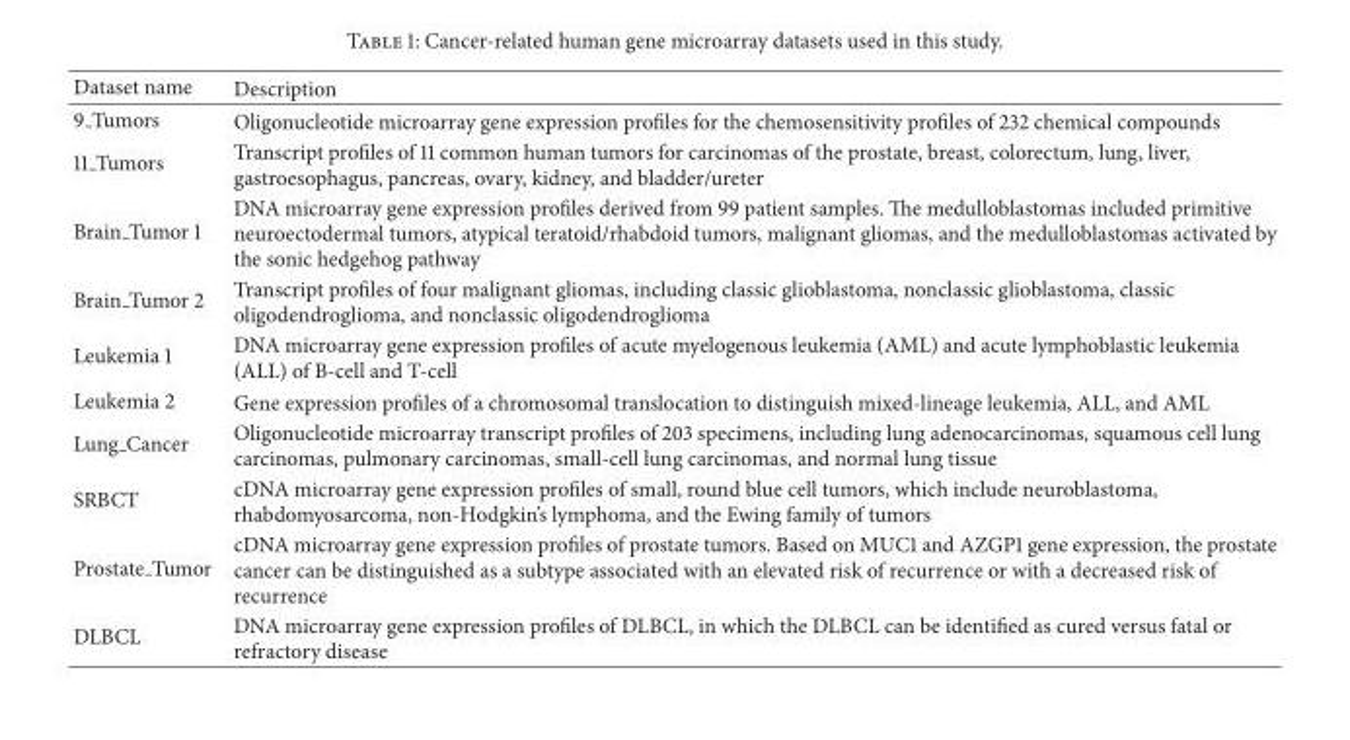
<table><thead><tr><td>Dataset name</td><td>Description</td></tr></thead><tbody><tr><td>9 Tumors</td><td>Oligonucleotide microarray gene expression profiles for the chemosensitivity profiles of 232 chemical compounds</td></tr><tr><td>11 Tumors</td><td>Transcript profiles of 11 common human tumors for carcinomas of the prostate, breast, colorectum, lung, liver, gastroesophagus, pancreas, ovary, kidney, and bladder/ureter</td></tr><tr><td>Brain Tumor 1</td><td>DNA microarray gene expression profiles derived from 99 patient samples. The medulloblastomas included primitive neuroectodermal tumors, atypical teratoid/rhabdoid tumors, malignant gliomas, and the medulloblastomas activated by the sonic hedgehog pathway</td></tr><tr><td>Brain Tumor 2</td><td>Transcript profiles of four malignant gliomas, including classic glioblastoma, nonclassic glioblastoma, classic oligodendroglioma, and nonclassic oligodendroglioma</td></tr><tr><td>Leukemia 1</td><td>DNA microarray gene expression profiles of acute myelogenous leukemia (AML) and acute lymphoblastic leukemia (ALL) of B-cell and T-cell</td></tr><tr><td>Leukemia 2</td><td>Gene expression profiles of a chromosomal translocation to distinguish mixed-lineage leukemia, ALL, and AML</td></tr><tr><td>Lung Cancer</td><td>Oligonucleotide microarray transcript profiles of 203 specimens, including lung adenocarcinomas, squamous cell lung carcinomas, pulmonary carcinomas, small-cell lung carcinomas, and normal lung tissue</td></tr><tr><td>SRBCT</td><td>cDNA microarray gene expression profiles of small, round blue cell tumors, which include neuroblastoma, rhabdomyosarcoma, non-Hodgkin’s lymphoma, and the Ewing family of tumors</td></tr><tr><td>Prostate Tumor</td><td>cDNA microarray gene expression profiles of prostate tumors. Based on MUC1 and AZGP1 gene expression, the prostate cancer can be distinguished as a subtype associated with an elevated risk of recurrence or with a decreased risk of recurrence</td></tr><tr><td>DLBCL</td><td>DNA microarray gene expression profiles of DLBCL, in which the DLBCL can be identified as cured versus fatal or refractory disease</td></tr></tbody></table>